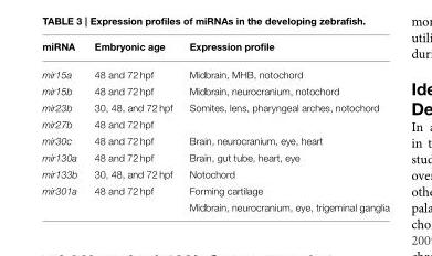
<table><thead><tr><td>miRNA</td><td>Embryonic age</td><td>Expression profile</td></tr></thead><tbody><tr><td>mir15a</td><td>48 and 72 hpf</td><td>Midbrain, MHB, notochord</td></tr><tr><td>mir15b</td><td>48 and 72 hpf</td><td>Midbrain, neurocranium, notochord</td></tr><tr><td>mir23b</td><td>30, 48, and 72 hpf</td><td>Somites, lens, pharyngeal arches, notochord</td></tr><tr><td>mir27b</td><td>48 and 72 hpf</td><td></td></tr><tr><td>mir30c</td><td>48 and 72 hpf</td><td>Brain, neurocranium, eye, heart</td></tr><tr><td>mir130a</td><td>48 and 72 hpf</td><td>Brain, gut tube, heart, eye</td></tr><tr><td>mir133b</td><td>30, 48, and 72 hpf</td><td>Notochord</td></tr><tr><td rowspan="2">mir301a</td><td>48 and 72 hpf</td><td>Forming cartilage</td></tr><tr><td></td><td>Midbrain, neurocranium, eye, trigeminal ganglia</td></tr></tbody></table>